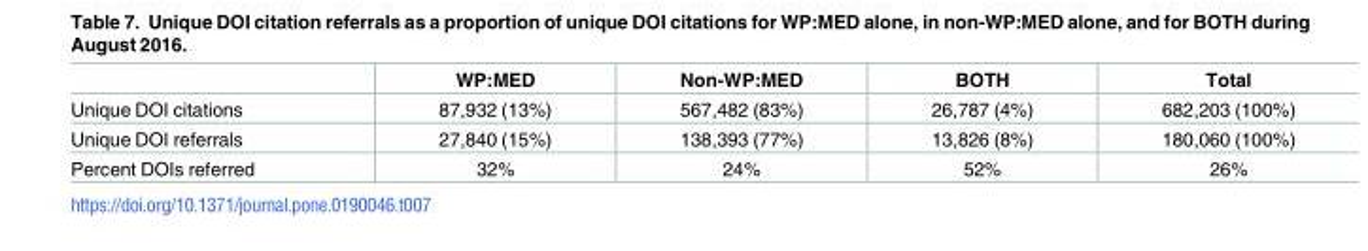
<table><thead><tr><td></td><td>WP:MED</td><td>Non-WP:MED</td><td>BOTH</td><td>Total</td></tr></thead><tbody><tr><td>Unique DOI citations</td><td>87,932 (13%)</td><td>567,482 (83%)</td><td>26,787 (4%)</td><td>682,203 (100%)</td></tr><tr><td>Unique DOI referrals</td><td>27,840 (15%)</td><td>138,393 (77%)</td><td>13,826 (8%)</td><td>180,060 (100%)</td></tr><tr><td>Percent DOIs referred</td><td>32%</td><td>24%</td><td>52%</td><td>26%</td></tr></tbody></table>